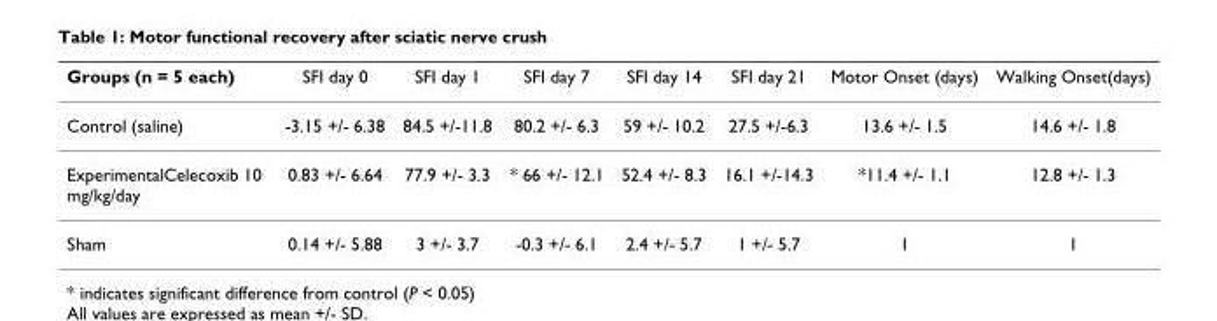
<table><thead><tr><td>Groups (n = 5 each)</td><td>SFI day 0</td><td>SFI day 1</td><td>SFI day 7</td><td>SFI day 14</td><td>SFI day 21</td><td>Motor Onset (days)</td><td>Walking Onset(days)</td></tr></thead><tbody><tr><td>Control (saline)</td><td>-3.15 +/- 6.38</td><td>84.5 +/-11.8</td><td>80.2 +/- 6.3</td><td>59 +/- 10.2</td><td>27.5 +/-6.3</td><td>13.6 +/- 1.5</td><td>14.6 +/- 1.8</td></tr><tr><td>ExperimentalCelecoxib 10 mg/kg/day</td><td>0.83 +/- 6.64</td><td>77.9 +/- 3.3</td><td>* 66 +/- 12.1</td><td>52.4 +/- 8.3</td><td>16.1 +/-14.3</td><td>*11.4 +/- 1.1</td><td>12.8 +/- 1.3</td></tr><tr><td>Sham</td><td>0.14 +/- 5.88</td><td>3 +/- 3.7</td><td>-0.3 +/- 6.1</td><td>2.4 +/- 5.7</td><td>1 +/- 5.7</td><td>1</td><td>1</td></tr></tbody></table>